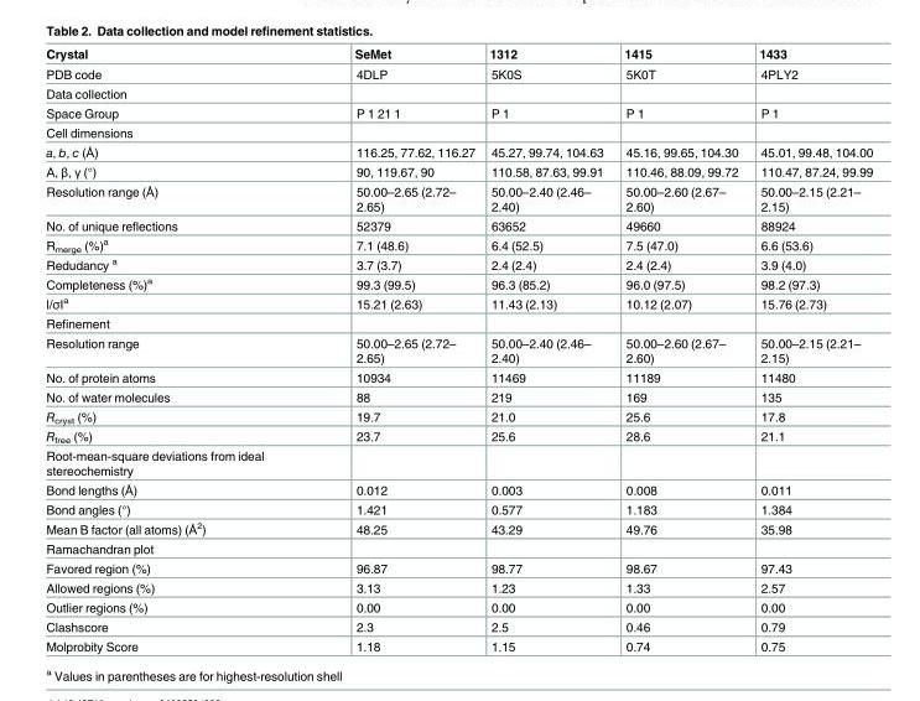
<table><thead><tr><td>Crystal</td><td>SeMet</td><td>1312</td><td>1415</td><td>1433</td></tr></thead><tbody><tr><td>PDB code</td><td>4DLP</td><td>5K0S</td><td>5K0T</td><td>4PLY2</td></tr><tr><td colspan="5">Data collection</td></tr><tr><td>Space Group</td><td>P 1 21 1</td><td>P 1</td><td>P 1</td><td>P 1</td></tr><tr><td colspan="5">Cell dimensions</td></tr><tr><td>a, b, c (Å)</td><td>116.25, 77.62, 116.27</td><td>45.27, 99.74, 104.63</td><td>45.16, 99.65, 104.30</td><td>45.01, 99.48, 104.00</td></tr><tr><td>Α, β, γ (°)</td><td>90, 119.67, 90</td><td>110.58, 87.63, 99.91</td><td>110.46, 88.09, 99.72</td><td>110.47, 87.24, 99.99</td></tr><tr><td>Resolution range (Å)</td><td>50.00–2.65 (2.72– 2.65)</td><td>50.00–2.40 (2.46– 2.40)</td><td>50.00–2.60 (2.67– 2.60)</td><td>50.00–2.15 (2.21– 2.15)</td></tr><tr><td>No. of unique reflections</td><td>52379</td><td>63652</td><td>49660</td><td>88924</td></tr><tr><td>R<sub>merge</sub> (%)<sup>a</sup></td><td>7.1 (48.6)</td><td>6.4 (52.5)</td><td>7.5 (47.0)</td><td>6.6 (53.6)</td></tr><tr><td>Redudancy <sup>a</sup></td><td>3.7 (3.7)</td><td>2.4 (2.4)</td><td>2.4 (2.4)</td><td>3.9 (4.0)</td></tr><tr><td>Completeness (%)<sup>a</sup></td><td>99.3 (99.5)</td><td>96.3 (85.2)</td><td>96.0 (97.5)</td><td>98.2 (97.3)</td></tr><tr><td>l/σI<sup>a</sup></td><td>15.21 (2.63)</td><td>11.43 (2.13)</td><td>10.12 (2.07)</td><td>15.76 (2.73)</td></tr><tr><td colspan="5">Refinement</td></tr><tr><td>Resolution range</td><td>50.00–2.65 (2.72– 2.65)</td><td>50.00–2.40 (2.46– 2.40)</td><td>50.00–2.60 (2.67– 2.60)</td><td>50.00–2.15 (2.21– 2.15)</td></tr><tr><td>No. of protein atoms</td><td>10934</td><td>11469</td><td>11189</td><td>11480</td></tr><tr><td>No. of water molecules</td><td>88</td><td>219</td><td>169</td><td>135</td></tr><tr><td>R<sub>cryst</sub> (%)</td><td>19.7</td><td>21.0</td><td>25.6</td><td>17.8</td></tr><tr><td>R<sub>free</sub> (%)</td><td>23.7</td><td>25.6</td><td>28.6</td><td>21.1</td></tr><tr><td colspan="5">Root-mean-square deviations from ideal stereochemistry</td></tr><tr><td>Bond lengths (Å)</td><td>0.012</td><td>0.003</td><td>0.008</td><td>0.011</td></tr><tr><td>Bond angles (°)</td><td>1.421</td><td>0.577</td><td>1.183</td><td>1.384</td></tr><tr><td>Mean B factor (all atoms) (Å<sup>2</sup>)</td><td>48.25</td><td>43.29</td><td>49.76</td><td>35.98</td></tr><tr><td colspan="5">Ramachandran plot</td></tr><tr><td>Favored region (%)</td><td>96.87</td><td>98.77</td><td>98.67</td><td>97.43</td></tr><tr><td>Allowed regions (%)</td><td>3.13</td><td>1.23</td><td>1.33</td><td>2.57</td></tr><tr><td>Outlier regions (%)</td><td>0.00</td><td>0.00</td><td>0.00</td><td>0.00</td></tr><tr><td>Clashscore</td><td>2.3</td><td>2.5</td><td>0.46</td><td>0.79</td></tr><tr><td>Molprobity Score</td><td>1.18</td><td>1.15</td><td>0.74</td><td>0.75</td></tr></tbody></table>